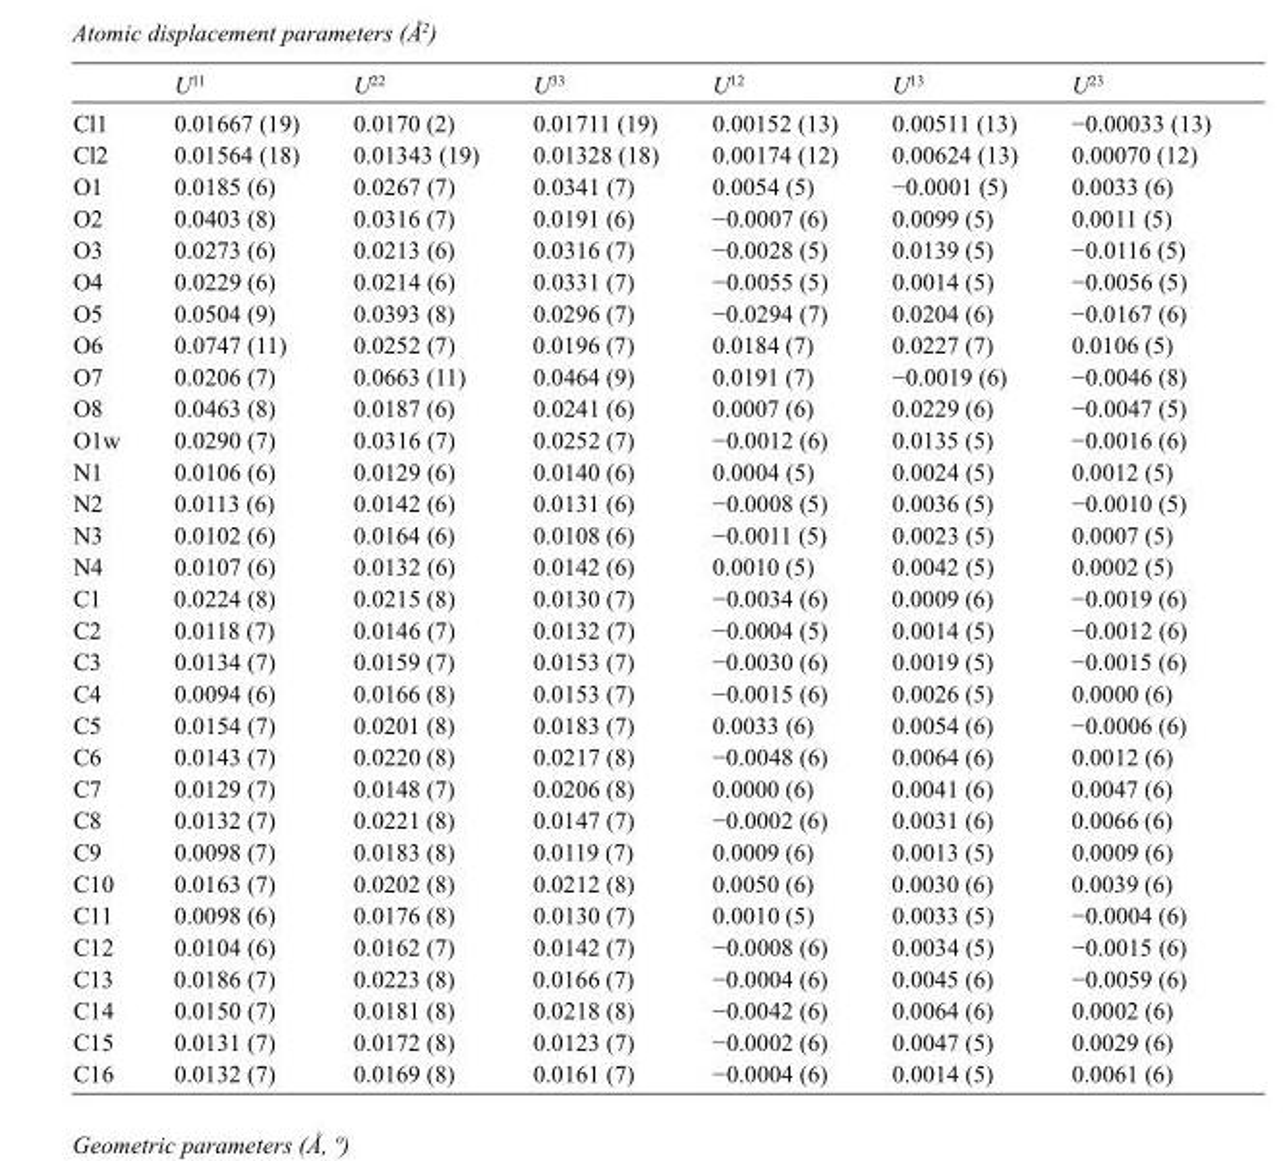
<table><thead><tr><td></td><td>U<sup>11</sup></td><td>U<sup>22</sup></td><td>U<sup>33</sup></td><td>U<sup>12</sup></td><td>U<sup>13</sup></td><td>U<sup>23</sup></td></tr></thead><tbody><tr><td>Cl1</td><td>0.01667 (19)</td><td>0.0170 (2)</td><td>0.01711 (19)</td><td>0.00152 (13)</td><td>0.00511 (13)</td><td>−0.00033 (13)</td></tr><tr><td>Cl2</td><td>0.01564 (18)</td><td>0.01343 (19)</td><td>0.01328 (18)</td><td>0.00174 (12)</td><td>0.00624 (13)</td><td>0.00070 (12)</td></tr><tr><td>O1</td><td>0.0185 (6)</td><td>0.0267 (7)</td><td>0.0341 (7)</td><td>0.0054 (5)</td><td>−0.0001 (5)</td><td>0.0033 (6)</td></tr><tr><td>O2</td><td>0.0403 (8)</td><td>0.0316 (7)</td><td>0.0191 (6)</td><td>−0.0007 (6)</td><td>0.0099 (5)</td><td>0.0011 (5)</td></tr><tr><td>O3</td><td>0.0273 (6)</td><td>0.0213 (6)</td><td>0.0316 (7)</td><td>−0.0028 (5)</td><td>0.0139 (5)</td><td>−0.0116 (5)</td></tr><tr><td>O4</td><td>0.0229 (6)</td><td>0.0214 (6)</td><td>0.0331 (7)</td><td>−0.0055 (5)</td><td>0.0014 (5)</td><td>−0.0056 (5)</td></tr><tr><td>O5</td><td>0.0504 (9)</td><td>0.0393 (8)</td><td>0.0296 (7)</td><td>−0.0294 (7)</td><td>0.0204 (6)</td><td>−0.0167 (6)</td></tr><tr><td>O6</td><td>0.0747 (11)</td><td>0.0252 (7)</td><td>0.0196 (7)</td><td>0.0184 (7)</td><td>0.0227 (7)</td><td>0.0106 (5)</td></tr><tr><td>O7</td><td>0.0206 (7)</td><td>0.0663 (11)</td><td>0.0464 (9)</td><td>0.0191 (7)</td><td>−0.0019 (6)</td><td>−0.0046 (8)</td></tr><tr><td>O8</td><td>0.0463 (8)</td><td>0.0187 (6)</td><td>0.0241 (6)</td><td>0.0007 (6)</td><td>0.0229 (6)</td><td>−0.0047 (5)</td></tr><tr><td>O1w</td><td>0.0290 (7)</td><td>0.0316 (7)</td><td>0.0252 (7)</td><td>−0.0012 (6)</td><td>0.0135 (5)</td><td>−0.0016 (6)</td></tr><tr><td>N1</td><td>0.0106 (6)</td><td>0.0129 (6)</td><td>0.0140 (6)</td><td>0.0004 (5)</td><td>0.0024 (5)</td><td>0.0012 (5)</td></tr><tr><td>N2</td><td>0.0113 (6)</td><td>0.0142 (6)</td><td>0.0131 (6)</td><td>−0.0008 (5)</td><td>0.0036 (5)</td><td>−0.0010 (5)</td></tr><tr><td>N3</td><td>0.0102 (6)</td><td>0.0164 (6)</td><td>0.0108 (6)</td><td>−0.0011 (5)</td><td>0.0023 (5)</td><td>0.0007 (5)</td></tr><tr><td>N4</td><td>0.0107 (6)</td><td>0.0132 (6)</td><td>0.0142 (6)</td><td>0.0010 (5)</td><td>0.0042 (5)</td><td>0.0002 (5)</td></tr><tr><td>C1</td><td>0.0224 (8)</td><td>0.0215 (8)</td><td>0.0130 (7)</td><td>−0.0034 (6)</td><td>0.0009 (6)</td><td>−0.0019 (6)</td></tr><tr><td>C2</td><td>0.0118 (7)</td><td>0.0146 (7)</td><td>0.0132 (7)</td><td>−0.0004 (5)</td><td>0.0014 (5)</td><td>−0.0012 (6)</td></tr><tr><td>C3</td><td>0.0134 (7)</td><td>0.0159 (7)</td><td>0.0153 (7)</td><td>−0.0030 (6)</td><td>0.0019 (5)</td><td>−0.0015 (6)</td></tr><tr><td>C4</td><td>0.0094 (6)</td><td>0.0166 (8)</td><td>0.0153 (7)</td><td>−0.0015 (6)</td><td>0.0026 (5)</td><td>0.0000 (6)</td></tr><tr><td>C5</td><td>0.0154 (7)</td><td>0.0201 (8)</td><td>0.0183 (7)</td><td>0.0033 (6)</td><td>0.0054 (6)</td><td>−0.0006 (6)</td></tr><tr><td>C6</td><td>0.0143 (7)</td><td>0.0220 (8)</td><td>0.0217 (8)</td><td>−0.0048 (6)</td><td>0.0064 (6)</td><td>0.0012 (6)</td></tr><tr><td>C7</td><td>0.0129 (7)</td><td>0.0148 (7)</td><td>0.0206 (8)</td><td>0.0000 (6)</td><td>0.0041 (6)</td><td>0.0047 (6)</td></tr><tr><td>C8</td><td>0.0132 (7)</td><td>0.0221 (8)</td><td>0.0147 (7)</td><td>−0.0002 (6)</td><td>0.0031 (6)</td><td>0.0066 (6)</td></tr><tr><td>C9</td><td>0.0098 (7)</td><td>0.0183 (8)</td><td>0.0119 (7)</td><td>0.0009 (6)</td><td>0.0013 (5)</td><td>0.0009 (6)</td></tr><tr><td>C10</td><td>0.0163 (7)</td><td>0.0202 (8)</td><td>0.0212 (8)</td><td>0.0050 (6)</td><td>0.0030 (6)</td><td>0.0039 (6)</td></tr><tr><td>C11</td><td>0.0098 (6)</td><td>0.0176 (8)</td><td>0.0130 (7)</td><td>0.0010 (5)</td><td>0.0033 (5)</td><td>−0.0004 (6)</td></tr><tr><td>C12</td><td>0.0104 (6)</td><td>0.0162 (7)</td><td>0.0142 (7)</td><td>−0.0008 (6)</td><td>0.0034 (5)</td><td>−0.0015 (6)</td></tr><tr><td>C13</td><td>0.0186 (7)</td><td>0.0223 (8)</td><td>0.0166 (7)</td><td>−0.0004 (6)</td><td>0.0045 (6)</td><td>−0.0059 (6)</td></tr><tr><td>C14</td><td>0.0150 (7)</td><td>0.0181 (8)</td><td>0.0218 (8)</td><td>−0.0042 (6)</td><td>0.0064 (6)</td><td>0.0002 (6)</td></tr><tr><td>C15</td><td>0.0131 (7)</td><td>0.0172 (8)</td><td>0.0123 (7)</td><td>−0.0002 (6)</td><td>0.0047 (5)</td><td>0.0029 (6)</td></tr><tr><td>C16</td><td>0.0132 (7)</td><td>0.0169 (8)</td><td>0.0161 (7)</td><td>−0.0004 (6)</td><td>0.0014 (5)</td><td>0.0061 (6)</td></tr></tbody></table>